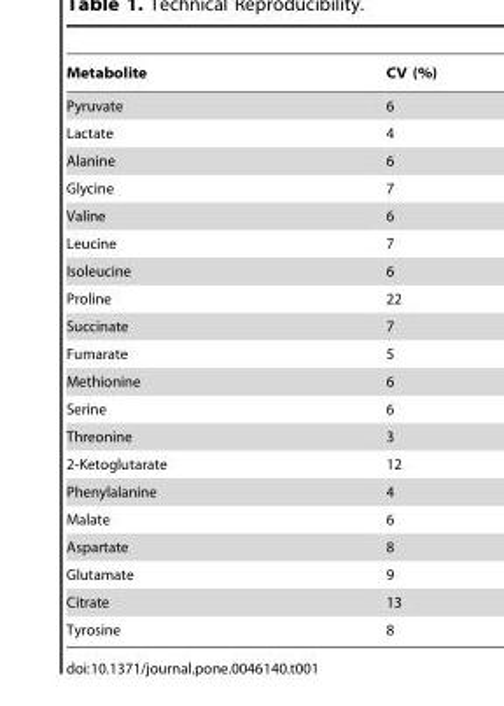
<table><thead><tr><td>Metabolite</td><td>CV (%)</td></tr></thead><tbody><tr><td>Pyruvate</td><td>6</td></tr><tr><td>Lactate</td><td>4</td></tr><tr><td>Alanine</td><td>6</td></tr><tr><td>Glycine</td><td>7</td></tr><tr><td>Valine</td><td>6</td></tr><tr><td>Leucine</td><td>7</td></tr><tr><td>Isoleucine</td><td>6</td></tr><tr><td>Proline</td><td>22</td></tr><tr><td>Succinate</td><td>7</td></tr><tr><td>Fumarate</td><td>5</td></tr><tr><td>Methionine</td><td>6</td></tr><tr><td>Serine</td><td>6</td></tr><tr><td>Threonine</td><td>3</td></tr><tr><td>2-Ketoglutarate</td><td>12</td></tr><tr><td>Phenylalanine</td><td>4</td></tr><tr><td>Malate</td><td>6</td></tr><tr><td>Aspartate</td><td>8</td></tr><tr><td>Glutamate</td><td>9</td></tr><tr><td>Citrate</td><td>13</td></tr><tr><td>Tyrosine</td><td>8</td></tr></tbody></table>